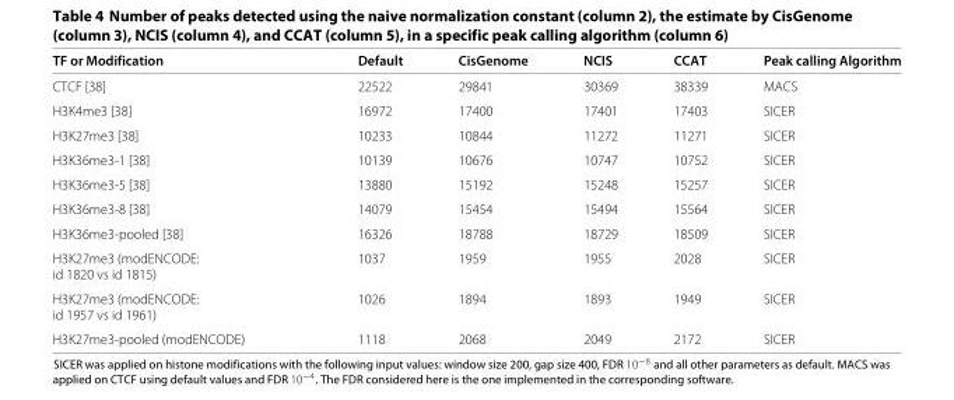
<table><thead><tr><td>TF or Modification</td><td>Default</td><td>CisGenome</td><td>NCIS</td><td>CCAT</td><td>Peak calling Algorithm</td></tr></thead><tbody><tr><td>CTCF [38]</td><td>22522</td><td>29841</td><td>30369</td><td>38339</td><td>MACS</td></tr><tr><td>H3K4me3 [38]</td><td>16972</td><td>17400</td><td>17401</td><td>17403</td><td>SICER</td></tr><tr><td>H3K27me3 [38]</td><td>10233</td><td>10844</td><td>11272</td><td>11271</td><td>SICER</td></tr><tr><td>H3K36me3-1 [38]</td><td>10139</td><td>10676</td><td>10747</td><td>10752</td><td>SICER</td></tr><tr><td>H3K36me3-5 [38]</td><td>13880</td><td>15192</td><td>15248</td><td>15257</td><td>SICER</td></tr><tr><td>H3K36me3-8 [38]</td><td>14079</td><td>15454</td><td>15494</td><td>15564</td><td>SICER</td></tr><tr><td>H3K36me3-pooled [38]</td><td>16326</td><td>18788</td><td>18729</td><td>18509</td><td>SICER</td></tr><tr><td>H3K27me3 (modENCODE: id 1820 vs id 1815)</td><td>1037</td><td>1959</td><td>1955</td><td>2028</td><td>SICER</td></tr><tr><td>H3K27me3 (modENCODE: id 1957 vs id 1961)</td><td>1026</td><td>1894</td><td>1893</td><td>1949</td><td>SICER</td></tr><tr><td>H3K27me3-pooled (modENCODE)</td><td>1118</td><td>2068</td><td>2049</td><td>2172</td><td>SICER</td></tr></tbody></table>